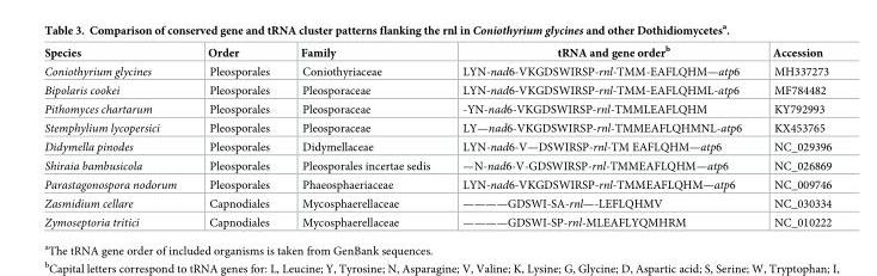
<table><thead><tr><td>Species</td><td>Order</td><td>Family</td><td>tRNA and gene order<sup>b</sup></td><td>Accession</td></tr></thead><tbody><tr><td>Coniothyrium glycines</td><td>Pleosporales</td><td>Coniothyriaceae</td><td>LYN-nad6-VKGDSWIRSP-rnl-TMM-EAFLQHM—atp6</td><td>MH337273</td></tr><tr><td>Bipolaris cookei</td><td>Pleosporales</td><td>Pleosporaceae</td><td>LYN-nad6-VKGDSWIRSP-rnl-TMM-EAFLQHML-atp6</td><td>MF784482</td></tr><tr><td>Pithomyces chartarum</td><td>Pleosporales</td><td>Pleosporaceae</td><td>-YN-nad6-VKGDSWIRSP-rnl-TMMLEAFLQHM</td><td>KY792993</td></tr><tr><td>Stemphylium lycopersici</td><td>Pleosporales</td><td>Pleosporaceae</td><td>LY—nad6-VKGDSWIRSP-rnl-TMMEAFLQHMNL-atp6</td><td>KX453765</td></tr><tr><td>Didymella pinodes</td><td>Pleosporales</td><td>Didymellaceae</td><td>LYN-nad6-V—DSWIRSP-rnl-TM EAFLQHM—atp6</td><td>NC_029396</td></tr><tr><td>Shiraia bambusicola</td><td>Pleosporales</td><td>Pleosporales incertae sedis</td><td>—N-nad6-V-GDSWIRSP-rnl-TMMEAFLQHM—atp6</td><td>NC_026869</td></tr><tr><td>Parastagonospora nodorum</td><td>Pleosporales</td><td>Phaeosphaeriaceae</td><td>LYN-nad6-VKGDSWIRSP-rnl-TMMEAFLQHM—atp6</td><td>NC_009746</td></tr><tr><td>Zasmidium cellare</td><td>Capnodiales</td><td>Mycosphaerellaceae</td><td>————GDSWI-SA-rnl—-LEFLQHMV</td><td>NC_030334</td></tr><tr><td>Zymoseptoria tritici</td><td>Capnodiales</td><td>Mycosphaerellaceae</td><td>————GDSWI-SP-rnl-MLEAFLYQMHRM</td><td>NC_010222</td></tr></tbody></table>